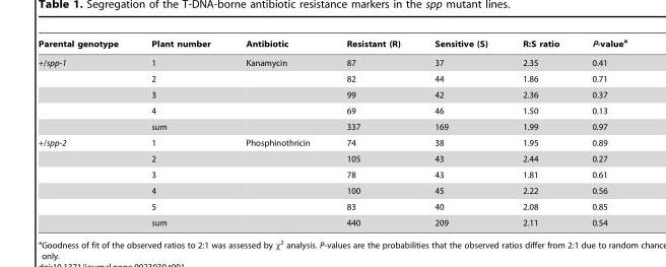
<table><thead><tr><td>Parental genotype</td><td>Plant number</td><td>Antibiotic</td><td>Resistant (R)</td><td>Sensitive (S)</td><td>R:S ratio</td><td>P-value<sup>a</sup></td></tr></thead><tbody><tr><td rowspan="5">+/spp-1</td><td>1</td><td>Kanamycin</td><td>87</td><td>37</td><td>2.35</td><td>0.41</td></tr><tr><td>2</td><td></td><td>82</td><td>44</td><td>1.86</td><td>0.71</td></tr><tr><td>3</td><td></td><td>99</td><td>42</td><td>2.36</td><td>0.37</td></tr><tr><td>4</td><td></td><td>69</td><td>46</td><td>1.50</td><td>0.13</td></tr><tr><td>sum</td><td></td><td>337</td><td>169</td><td>1.99</td><td>0.97</td></tr><tr><td rowspan="6">+/spp-2</td><td>1</td><td>Phosphinothricin</td><td>74</td><td>38</td><td>1.95</td><td>0.89</td></tr><tr><td>2</td><td></td><td>105</td><td>43</td><td>2.44</td><td>0.27</td></tr><tr><td>3</td><td></td><td>78</td><td>43</td><td>1.81</td><td>0.61</td></tr><tr><td>4</td><td></td><td>100</td><td>45</td><td>2.22</td><td>0.56</td></tr><tr><td>5</td><td></td><td>83</td><td>40</td><td>2.08</td><td>0.85</td></tr><tr><td>sum</td><td></td><td>440</td><td>209</td><td>2.11</td><td>0.54</td></tr></tbody></table>